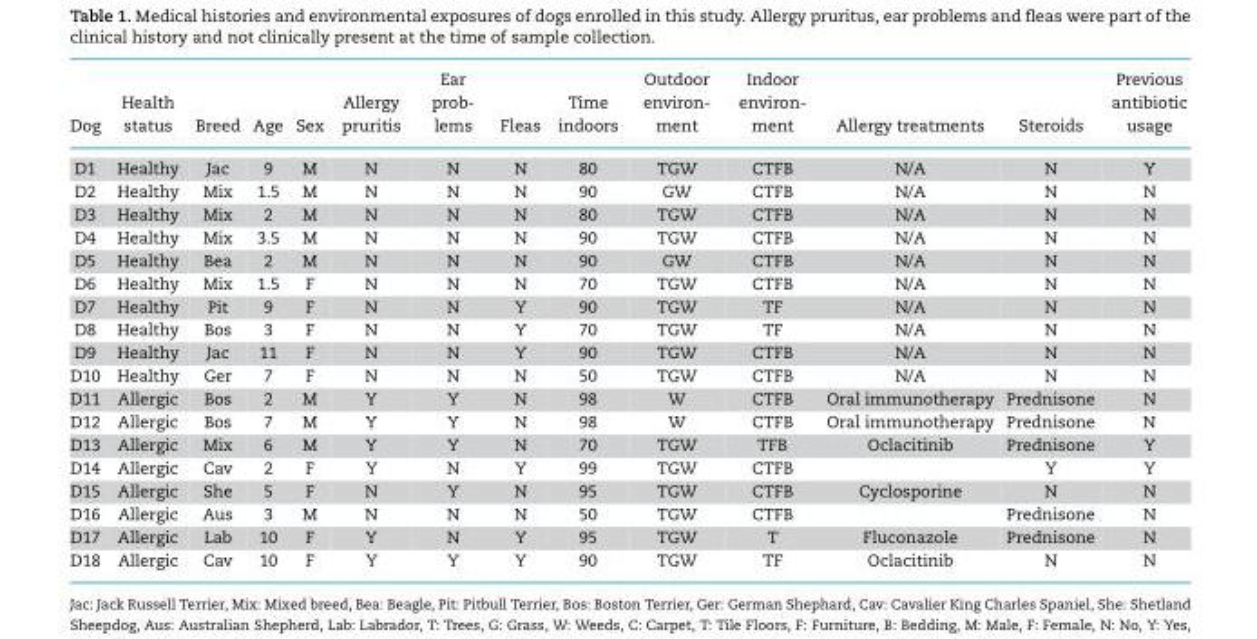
<table><thead><tr><td>Dog</td><td>Health status</td><td>Breed</td><td>Age</td><td>Sex</td><td>Allergy pruritis</td><td>Ear prob- lems</td><td>Fleas</td><td>Time indoors</td><td>Outdoor environ- ment</td><td>Indoor environ- ment</td><td>Allergy treatments</td><td>Steroids</td><td>Previous antibiotic usage</td></tr></thead><tbody><tr><td>D1</td><td>Healthy</td><td>Jac</td><td>9</td><td>M</td><td>N</td><td>N</td><td>N</td><td>80</td><td>TGW</td><td>CTFB</td><td>N/A</td><td>N</td><td>Y</td></tr><tr><td>D2</td><td>Healthy</td><td>Mix</td><td>1.5</td><td>M</td><td>N</td><td>N</td><td>N</td><td>90</td><td>GW</td><td>CTFB</td><td>N/A</td><td>N</td><td>N</td></tr><tr><td>D3</td><td>Healthy</td><td>Mix</td><td>2</td><td>M</td><td>N</td><td>N</td><td>N</td><td>80</td><td>TGW</td><td>CTFB</td><td>N/A</td><td>N</td><td>N</td></tr><tr><td>D4</td><td>Healthy</td><td>Mix</td><td>3.5</td><td>M</td><td>N</td><td>N</td><td>N</td><td>90</td><td>TGW</td><td>CTFB</td><td>N/A</td><td>N</td><td>N</td></tr><tr><td>D5</td><td>Healthy</td><td>Bea</td><td>2</td><td>M</td><td>N</td><td>N</td><td>N</td><td>90</td><td>GW</td><td>CTFB</td><td>N/A</td><td>N</td><td>N</td></tr><tr><td>D6</td><td>Healthy</td><td>Mix</td><td>1.5</td><td>F</td><td>N</td><td>N</td><td>N</td><td>70</td><td>TGW</td><td>CTFB</td><td>N/A</td><td>N</td><td>N</td></tr><tr><td>D7</td><td>Healthy</td><td>Pit</td><td>9</td><td>F</td><td>N</td><td>N</td><td>Y</td><td>90</td><td>TGW</td><td>TF</td><td>N/A</td><td>N</td><td>N</td></tr><tr><td>D8</td><td>Healthy</td><td>Bos</td><td>3</td><td>F</td><td>N</td><td>N</td><td>Y</td><td>70</td><td>TGW</td><td>TF</td><td>N/A</td><td>N</td><td>N</td></tr><tr><td>D9</td><td>Healthy</td><td>Jac</td><td>11</td><td>F</td><td>N</td><td>N</td><td>Y</td><td>90</td><td>TGW</td><td>CTFB</td><td>N/A</td><td>N</td><td>N</td></tr><tr><td>D10</td><td>Healthy</td><td>Ger</td><td>7</td><td>F</td><td>N</td><td>N</td><td>N</td><td>50</td><td>TGW</td><td>CTFB</td><td>N/A</td><td>N</td><td>N</td></tr><tr><td>D11</td><td>Allergic</td><td>Bos</td><td>2</td><td>M</td><td>Y</td><td>Y</td><td>N</td><td>98</td><td>W</td><td>CTFB</td><td>Oral immunotherapy</td><td>Prednisone</td><td>N</td></tr><tr><td>D12</td><td>Allergic</td><td>Bos</td><td>7</td><td>M</td><td>Y</td><td>Y</td><td>N</td><td>98</td><td>W</td><td>CTFB</td><td>Oral immunotherapy</td><td>Prednisone</td><td>N</td></tr><tr><td>D13</td><td>Allergic</td><td>Mix</td><td>6</td><td>M</td><td>Y</td><td>Y</td><td>N</td><td>70</td><td>TGW</td><td>TFB</td><td>Oclacitinib</td><td>Prednisone</td><td>Y</td></tr><tr><td>D14</td><td>Allergic</td><td>Cav</td><td>2</td><td>F</td><td>Y</td><td>N</td><td>Y</td><td>99</td><td>TGW</td><td>CTFB</td><td></td><td>Y</td><td>Y</td></tr><tr><td>D15</td><td>Allergic</td><td>She</td><td>5</td><td>F</td><td>N</td><td>Y</td><td>N</td><td>95</td><td>TGW</td><td>CTFB</td><td>Cyclosporine</td><td>N</td><td>N</td></tr><tr><td>D16</td><td>Allergic</td><td>Aus</td><td>3</td><td>M</td><td>N</td><td>N</td><td>N</td><td>50</td><td>TGW</td><td>CTFB</td><td></td><td>Prednisone</td><td>N</td></tr><tr><td>D17</td><td>Allergic</td><td>Lab</td><td>10</td><td>F</td><td>Y</td><td>N</td><td>Y</td><td>95</td><td>TGW</td><td>T</td><td>Fluconazole</td><td>Prednisone</td><td>N</td></tr><tr><td>D18</td><td>Allergic</td><td>Cav</td><td>10</td><td>F</td><td>Y</td><td>Y</td><td>Y</td><td>90</td><td>TGW</td><td>TF</td><td>Oclacitinib</td><td>N</td><td>N</td></tr></tbody></table>